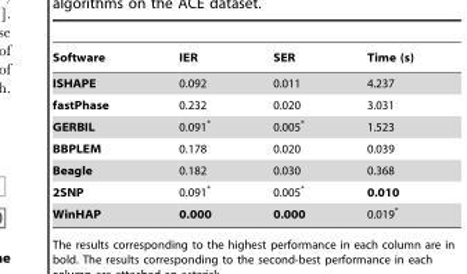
<table><thead><tr><td>Software</td><td>IER</td><td>SER</td><td>Time (s)</td></tr></thead><tbody><tr><td>ISHAPE</td><td>0.092</td><td>0.011</td><td>4.237</td></tr><tr><td>fastPhase</td><td>0.232</td><td>0.020</td><td>3.031</td></tr><tr><td>GERBIL</td><td>0.091*</td><td>0.005*</td><td>1.523</td></tr><tr><td>BBPLEM</td><td>0.178</td><td>0.020</td><td>0.039</td></tr><tr><td>Beagle</td><td>0.182</td><td>0.030</td><td>0.368</td></tr><tr><td>2SNP</td><td>0.091*</td><td>0.005*</td><td>0.010</td></tr><tr><td>WinHAP</td><td>0.000</td><td>0.000</td><td>0.019*</td></tr></tbody></table>